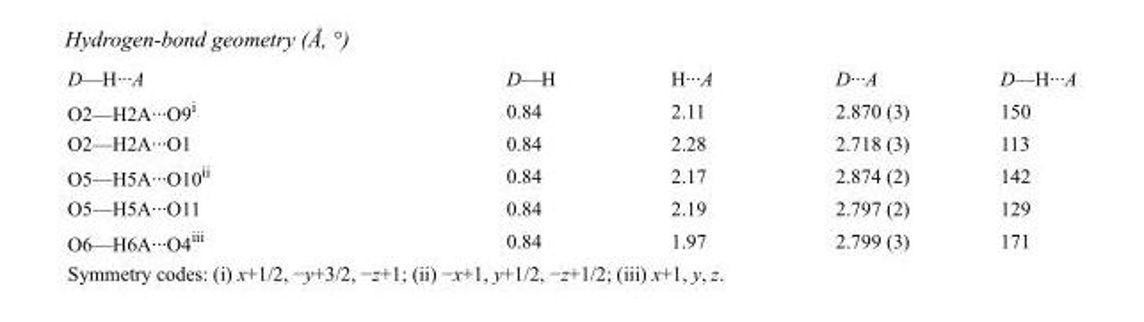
<table><tbody><tr><td>D—H···A</td><td>D—H</td><td>H···A</td><td>D···A</td><td>D—H···A</td></tr><tr><td>O2—H2A···O9<sup>i</sup></td><td>0.84</td><td>2.11</td><td>2.870 (3)</td><td>150</td></tr><tr><td>O2—H2A···O1</td><td>0.84</td><td>2.28</td><td>2.718 (3)</td><td>113</td></tr><tr><td>O5—H5A···O10<sup>ii</sup></td><td>0.84</td><td>2.17</td><td>2.874 (2)</td><td>142</td></tr><tr><td>O5—H5A···O11</td><td>0.84</td><td>2.19</td><td>2.797 (2)</td><td>129</td></tr><tr><td>O6—H6A···O4<sup>iii</sup></td><td>0.84</td><td>1.97</td><td>2.799 (3)</td><td>171</td></tr></tbody></table>